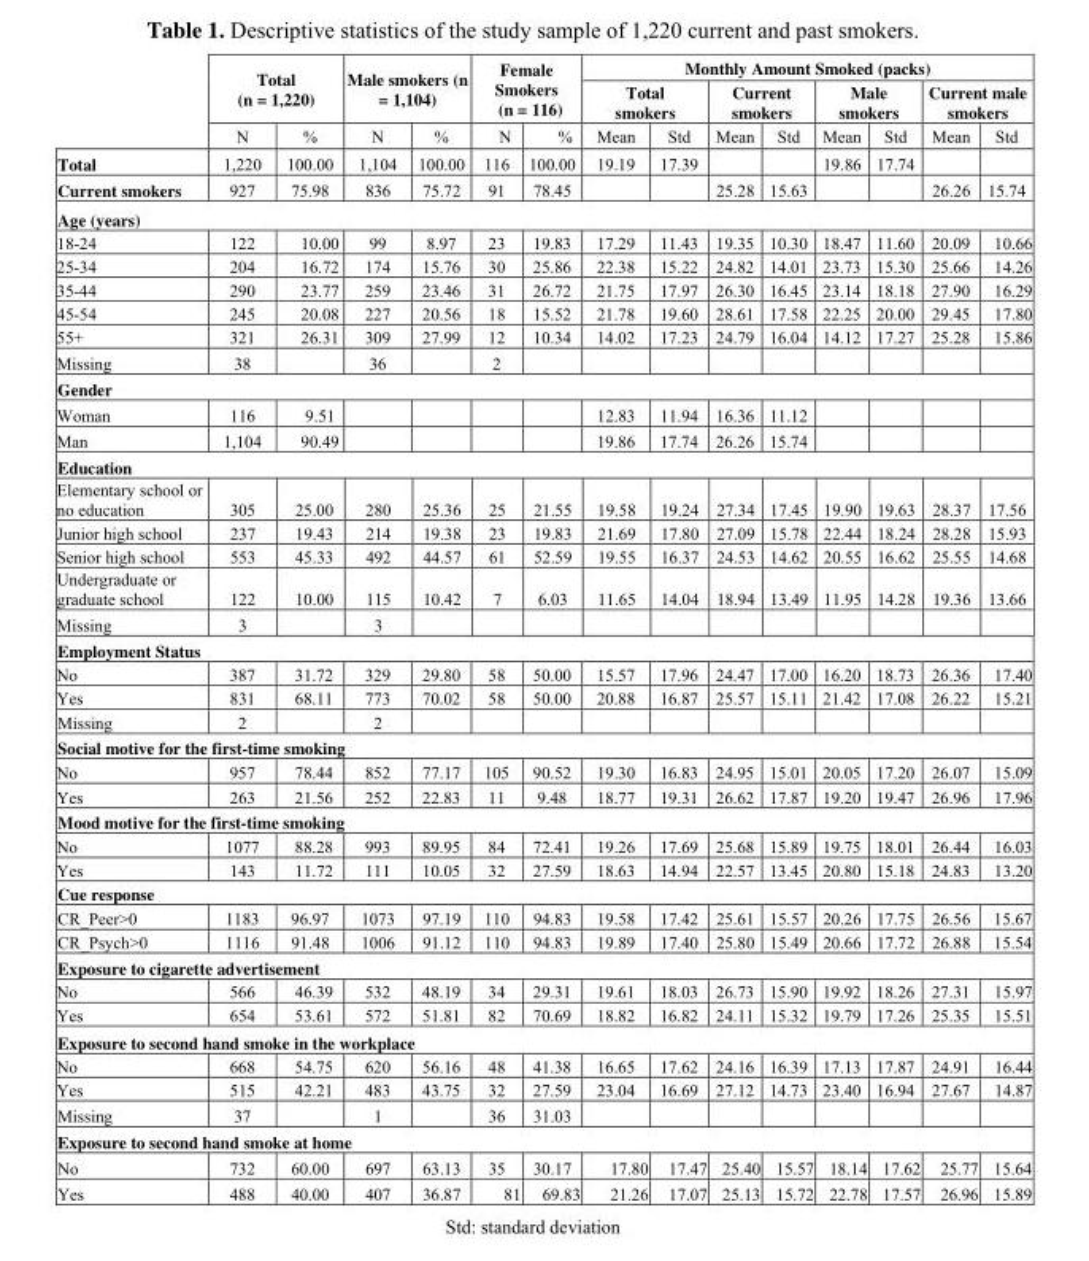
<table><thead><tr><td rowspan="3"></td><td rowspan="2" colspan="2">Total (n = 1,220)</td><td rowspan="2" colspan="2">Male smokers (n = 1,104)</td><td rowspan="2" colspan="2">Female Smokers (n = 116)</td><td colspan="8">Monthly Amount Smoked (packs)</td></tr><tr><td colspan="2">Total smokers</td><td colspan="2">Current smokers</td><td colspan="2">Male smokers</td><td colspan="2">Current male smokers</td></tr><tr><td>N</td><td>%</td><td>N</td><td>%</td><td>N</td><td>%</td><td>Mean</td><td>Std</td><td>Mean</td><td>Std</td><td>Mean</td><td>Std</td><td>Mean</td><td>Std</td></tr></thead><tbody><tr><td>Total</td><td>1,220</td><td>100.00</td><td>1,104</td><td>100.00</td><td>116</td><td>100.00</td><td>19.19</td><td>17.39</td><td></td><td></td><td>19.86</td><td>17.74</td><td></td><td></td></tr><tr><td>Current smokers</td><td>927</td><td>75.98</td><td>836</td><td>75.72</td><td>91</td><td>78.45</td><td></td><td></td><td>25.28</td><td>15.63</td><td></td><td></td><td>26.26</td><td>15.74</td></tr><tr><td colspan="15">Age (years)</td></tr><tr><td>18-24</td><td>122</td><td>10.00</td><td>99</td><td>8.97</td><td>23</td><td>19.83</td><td>17.29</td><td>11.43</td><td>19.35</td><td>10.30</td><td>18.47</td><td>11.60</td><td>20.09</td><td>10.66</td></tr><tr><td>25-34</td><td>204</td><td>16.72</td><td>174</td><td>15.76</td><td>30</td><td>25.86</td><td>22.38</td><td>15.22</td><td>24.82</td><td>14.01</td><td>23.73</td><td>15.30</td><td>25.66</td><td>14.26</td></tr><tr><td>35-44</td><td>290</td><td>23.77</td><td>259</td><td>23.46</td><td>31</td><td>26.72</td><td>21.75</td><td>17.97</td><td>26.30</td><td>16.45</td><td>23.14</td><td>18.18</td><td>27.90</td><td>16.29</td></tr><tr><td>45-54</td><td>245</td><td>20.08</td><td>227</td><td>20.56</td><td>18</td><td>15.52</td><td>21.78</td><td>19.60</td><td>28.61</td><td>17.58</td><td>22.25</td><td>20.00</td><td>29.45</td><td>17.80</td></tr><tr><td>55+</td><td>321</td><td>26.31</td><td>309</td><td>27.99</td><td>12</td><td>10.34</td><td>14.02</td><td>17.23</td><td>24.79</td><td>16.04</td><td>14.12</td><td>17.27</td><td>25.28</td><td>15.86</td></tr><tr><td>Missing</td><td>38</td><td></td><td>36</td><td></td><td>2</td><td></td><td></td><td></td><td></td><td></td><td></td><td></td><td></td><td></td></tr><tr><td colspan="15">Gender</td></tr><tr><td>Woman</td><td>116</td><td>9.51</td><td></td><td></td><td></td><td></td><td>12.83</td><td>11.94</td><td>16.36</td><td>11.12</td><td></td><td></td><td></td><td></td></tr><tr><td>Man</td><td>1,104</td><td>90.49</td><td></td><td></td><td></td><td></td><td>19.86</td><td>17.74</td><td>26.26</td><td>15.74</td><td></td><td></td><td></td><td></td></tr><tr><td colspan="15">Education</td></tr><tr><td>Elementary school or no education</td><td>305</td><td>25.00</td><td>280</td><td>25.36</td><td>25</td><td>21.55</td><td>19.58</td><td>19.24</td><td>27.34</td><td>17.45</td><td>19.90</td><td>19.63</td><td>28.37</td><td>17.56</td></tr><tr><td>Junior high school</td><td>237</td><td>19.43</td><td>214</td><td>19.38</td><td>23</td><td>19.83</td><td>21.69</td><td>17.80</td><td>27.09</td><td>15.78</td><td>22.44</td><td>18.24</td><td>28.28</td><td>15.93</td></tr><tr><td>Senior high school</td><td>553</td><td>45.33</td><td>492</td><td>44.57</td><td>61</td><td>52.59</td><td>19.55</td><td>16.37</td><td>24.53</td><td>14.62</td><td>20.55</td><td>16.62</td><td>25.55</td><td>14.68</td></tr><tr><td>Undergraduate or graduate school</td><td>122</td><td>10.00</td><td>115</td><td>10.42</td><td>7</td><td>6.03</td><td>11.65</td><td>14.04</td><td>18.94</td><td>13.49</td><td>11.95</td><td>14.28</td><td>19.36</td><td>13.66</td></tr><tr><td>Missing</td><td>3</td><td></td><td>3</td><td></td><td></td><td></td><td></td><td></td><td></td><td></td><td></td><td></td><td></td><td></td></tr><tr><td colspan="15">Employment Status</td></tr><tr><td>No</td><td>387</td><td>31.72</td><td>329</td><td>29.80</td><td>58</td><td>50.00</td><td>15.57</td><td>17.96</td><td>24.47</td><td>17.00</td><td>16.20</td><td>18.73</td><td>26.36</td><td>17.40</td></tr><tr><td>Yes</td><td>831</td><td>68.11</td><td>773</td><td>70.02</td><td>58</td><td>50.00</td><td>20.88</td><td>16.87</td><td>25.57</td><td>15.11</td><td>21.42</td><td>17.08</td><td>26.22</td><td>15.21</td></tr><tr><td>Missing</td><td>2</td><td></td><td>2</td><td></td><td></td><td></td><td></td><td></td><td></td><td></td><td></td><td></td><td></td><td></td></tr><tr><td colspan="15">Social motive for the first-time smoking</td></tr><tr><td>No</td><td>957</td><td>78.44</td><td>852</td><td>77.17</td><td>105</td><td>90.52</td><td>19.30</td><td>16.83</td><td>24.95</td><td>15.01</td><td>20.05</td><td>17.20</td><td>26.07</td><td>15.09</td></tr><tr><td>Yes</td><td>263</td><td>21.56</td><td>252</td><td>22.83</td><td>11</td><td>9.48</td><td>18.77</td><td>19.31</td><td>26.62</td><td>17.87</td><td>19.20</td><td>19.47</td><td>26.96</td><td>17.96</td></tr><tr><td colspan="15">Mood motive for the first-time smoking</td></tr><tr><td>No</td><td>1077</td><td>88.28</td><td>993</td><td>89.95</td><td>84</td><td>72.41</td><td>19.26</td><td>17.69</td><td>25.68</td><td>15.89</td><td>19.75</td><td>18.01</td><td>26.44</td><td>16.03</td></tr><tr><td>Yes</td><td>143</td><td>11.72</td><td>111</td><td>10.05</td><td>32</td><td>27.59</td><td>18.63</td><td>14.94</td><td>22.57</td><td>13.45</td><td>20.80</td><td>15.18</td><td>24.83</td><td>13.20</td></tr><tr><td colspan="15">Cue response</td></tr><tr><td>CR_Peer&gt;0</td><td>1183</td><td>96.97</td><td>1073</td><td>97.19</td><td>110</td><td>94.83</td><td>19.58</td><td>17.42</td><td>25.61</td><td>15.57</td><td>20.26</td><td>17.75</td><td>26.56</td><td>15.67</td></tr><tr><td>CR_Psych&gt;0</td><td>1116</td><td>91.48</td><td>1006</td><td>91.12</td><td>110</td><td>94.83</td><td>19.89</td><td>17.40</td><td>25.80</td><td>15.49</td><td>20.66</td><td>17.72</td><td>26.88</td><td>15.54</td></tr><tr><td colspan="15">Exposure to cigarette advertisement</td></tr><tr><td>No</td><td>566</td><td>46.39</td><td>532</td><td>48.19</td><td>34</td><td>29.31</td><td>19.61</td><td>18.03</td><td>26.73</td><td>15.90</td><td>19.92</td><td>18.26</td><td>27.31</td><td>15.97</td></tr><tr><td>Yes</td><td>654</td><td>53.61</td><td>572</td><td>51.81</td><td>82</td><td>70.69</td><td>18.82</td><td>16.82</td><td>24.11</td><td>15.32</td><td>19.79</td><td>17.26</td><td>25.35</td><td>15.51</td></tr><tr><td colspan="15">Exposure to second hand smoke in the workplace</td></tr><tr><td>No</td><td>668</td><td>54.75</td><td>620</td><td>56.16</td><td>48</td><td>41.38</td><td>16.65</td><td>17.62</td><td>24.16</td><td>16.39</td><td>17.13</td><td>17.87</td><td>24.91</td><td>16.44</td></tr><tr><td>Yes</td><td>515</td><td>42.21</td><td>483</td><td>43.75</td><td>32</td><td>27.59</td><td>23.04</td><td>16.69</td><td>27.12</td><td>14.73</td><td>23.40</td><td>16.94</td><td>27.67</td><td>14.87</td></tr><tr><td>Missing</td><td>37</td><td></td><td>1</td><td></td><td>36</td><td>31.03</td><td></td><td></td><td></td><td></td><td></td><td></td><td></td><td></td></tr><tr><td colspan="15">Exposure to second hand smoke at home</td></tr><tr><td>No</td><td>732</td><td>60.00</td><td>697</td><td>63.13</td><td>35</td><td>30.17</td><td>17.80</td><td>17.47</td><td>25.40</td><td>15.57</td><td>18.14</td><td>17.62</td><td>25.77</td><td>15.64</td></tr><tr><td>Yes</td><td>488</td><td>40.00</td><td>407</td><td>36.87</td><td>81</td><td>69.83</td><td>21.26</td><td>17.07</td><td>25.13</td><td>15.72</td><td>22.78</td><td>17.57</td><td>26.96</td><td>15.89</td></tr></tbody></table>